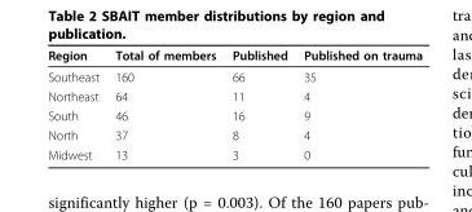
<table><thead><tr><td>Region</td><td>Total of members</td><td>Published</td><td>Published on trauma</td></tr></thead><tbody><tr><td>Southeast</td><td>160</td><td>66</td><td>35</td></tr><tr><td>Northeast</td><td>64</td><td>11</td><td>4</td></tr><tr><td>South</td><td>46</td><td>16</td><td>9</td></tr><tr><td>North</td><td>37</td><td>8</td><td>4</td></tr><tr><td>Midwest</td><td>13</td><td>3</td><td>0</td></tr></tbody></table>